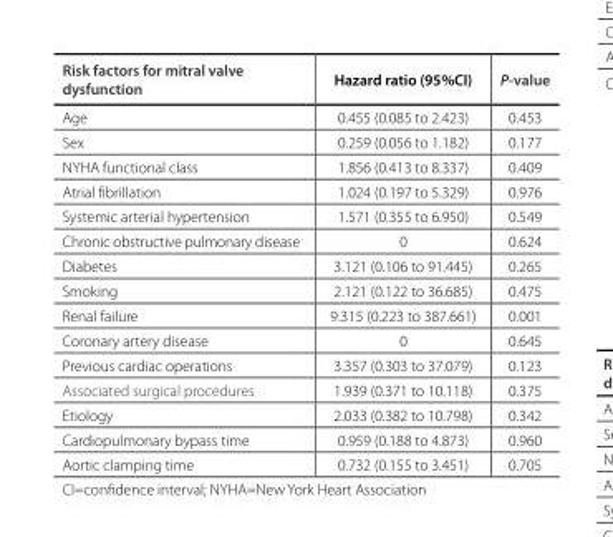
<table><thead><tr><td>Risk factors for mitral valve dysfunction</td><td>Hazard ratio (95%CI)</td><td>P-value</td></tr></thead><tbody><tr><td>Age</td><td>0.455 (0.085 to 2.423)</td><td>0.453</td></tr><tr><td>Sex</td><td>0.259 (0.056 to 1.182)</td><td>0.177</td></tr><tr><td>NYHA functional class</td><td>1.856 (0.413 to 8.337)</td><td>0.409</td></tr><tr><td>Atrial fibrillation</td><td>1.024 (0.197 to 5.329)</td><td>0.976</td></tr><tr><td>Systemic arterial hypertension</td><td>1.571 (0.355 to 6.950)</td><td>0.549</td></tr><tr><td>Chronic obstructive pulmonary disease</td><td>0</td><td>0.624</td></tr><tr><td>Diabetes</td><td>3.121 (0.106 to 91.445)</td><td>0.265</td></tr><tr><td>Smoking</td><td>2.121 (0.122 to 36.685)</td><td>0.475</td></tr><tr><td>Renal failure</td><td>9.315 (0.223 to 387.661)</td><td>0.001</td></tr><tr><td>Coronary artery disease</td><td>0</td><td>0.645</td></tr><tr><td>Previous cardiac operations</td><td>3.357 (0.303 to 37.079)</td><td>0.123</td></tr><tr><td>Associated surgical procedures</td><td>1.939 (0.371 to 10.118)</td><td>0.375</td></tr><tr><td>Etiology</td><td>2.033 (0.382 to 10.798)</td><td>0.342</td></tr><tr><td>Cardiopulmonary bypass time</td><td>0.959 (0.188 to 4.873)</td><td>0.960</td></tr><tr><td>Aortic clamping time</td><td>0.732 (0.155 to 3.451)</td><td>0.705</td></tr></tbody></table>